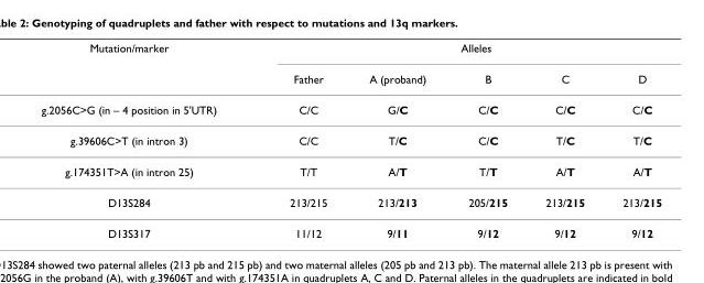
<table><thead><tr><td rowspan="2">Mutation/marker</td><td colspan="5">Alleles</td></tr><tr><td>Father</td><td>A (proband)</td><td>B</td><td>C</td><td>D</td></tr></thead><tbody><tr><td>g.2056C&gt;G (in – 4 position in 5&#x27;UTR)</td><td>C/C</td><td>G/C</td><td>C/C</td><td>C/C</td><td>C/C</td></tr><tr><td>g.39606C&gt;T (in intron 3)</td><td>C/C</td><td>T/C</td><td>C/C</td><td>T/C</td><td>T/C</td></tr><tr><td>g.174351T&gt;A (in intron 25)</td><td>T/T</td><td>A/T</td><td>T/T</td><td>A/T</td><td>A/T</td></tr><tr><td>D13S284</td><td>213/215</td><td>213/213</td><td>205/215</td><td>213/215</td><td>213/215</td></tr><tr><td>D13S317</td><td>11/12</td><td>9/11</td><td>9/12</td><td>9/12</td><td>9/12</td></tr></tbody></table>